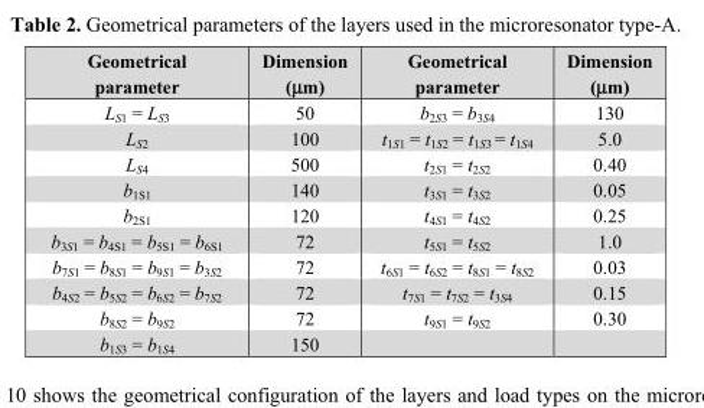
<table><thead><tr><td>Geometrical parameter</td><td>Dimension (μm)</td><td>Geometrical parameter</td><td>Dimension (μm)</td></tr></thead><tbody><tr><td>L<sub>S1</sub> = L<sub>S3</sub></td><td>50</td><td>b<sub>2S3</sub> = b<sub>3S4</sub></td><td>130</td></tr><tr><td>L<sub>S2</sub></td><td>100</td><td>t<sub>1S1</sub> = t<sub>1S2</sub> = t<sub>1S3</sub> = t<sub>1S4</sub></td><td>5.0</td></tr><tr><td>L<sub>S4</sub></td><td>500</td><td>t<sub>2S1</sub> = t<sub>2S2</sub></td><td>0.40</td></tr><tr><td>b<sub>1S1</sub></td><td>140</td><td>t<sub>3S1</sub> = t<sub>3S2</sub></td><td>0.05</td></tr><tr><td>b<sub>2S1</sub></td><td>120</td><td>t<sub>4S1</sub> = t<sub>4S2</sub></td><td>0.25</td></tr><tr><td>b<sub>3S1</sub> = b<sub>4S1</sub> = b<sub>5S1</sub> = b<sub>6S1</sub></td><td>72</td><td>t<sub>5S1</sub> = t<sub>5S2</sub></td><td>1.0</td></tr><tr><td>b<sub>7S1</sub> = b<sub>8S1</sub> = b<sub>9S1</sub> = b<sub>3S2</sub></td><td>72</td><td>t<sub>6S1</sub> = t<sub>6S2</sub> = t<sub>8S1</sub> = t<sub>8S2</sub></td><td>0.03</td></tr><tr><td>b<sub>4S2</sub> = b<sub>5S2</sub> = b<sub>6S2</sub> = b<sub>7S2</sub></td><td>72</td><td>t<sub>7S1</sub> = t<sub>7S2</sub> = t<sub>3S4</sub></td><td>0.15</td></tr><tr><td>b<sub>8S2</sub> = b<sub>9S2</sub></td><td>72</td><td>t<sub>9S1</sub> = t<sub>9S2</sub></td><td>0.30</td></tr><tr><td>b<sub>1S3</sub> = b<sub>1S4</sub></td><td>150</td><td></td><td></td></tr></tbody></table>